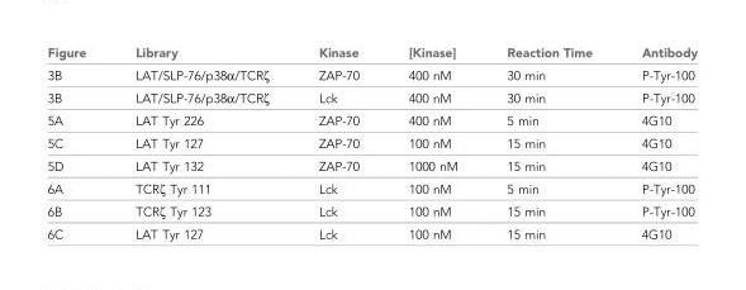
<table><thead><tr><td>Figure</td><td>Library</td><td>Kinase</td><td>[Kinase]</td><td>Reaction Time</td><td>Antibody</td></tr></thead><tbody><tr><td>3B</td><td>LAT/SLP-76/p38α/TCRζ</td><td>ZAP-70</td><td>400 nM</td><td>30 min</td><td>P-Tyr-100</td></tr><tr><td>3B</td><td>LAT/SLP-76/p38α/TCRζ</td><td>Lck</td><td>400 nM</td><td>30 min</td><td>P-Tyr-100</td></tr><tr><td>5A</td><td>LAT Tyr 226</td><td>ZAP-70</td><td>400 nM</td><td>5 min</td><td>4G10</td></tr><tr><td>5C</td><td>LAT Tyr 127</td><td>ZAP-70</td><td>100 nM</td><td>15 min</td><td>4G10</td></tr><tr><td>5D</td><td>LAT Tyr 132</td><td>ZAP-70</td><td>1000 nM</td><td>15 min</td><td>4G10</td></tr><tr><td>6A</td><td>TCRζ Tyr 111</td><td>Lck</td><td>100 nM</td><td>5 min</td><td>P-Tyr-100</td></tr><tr><td>6B</td><td>TCRζ Tyr 123</td><td>Lck</td><td>100 nM</td><td>15 min</td><td>P-Tyr-100</td></tr><tr><td>6C</td><td>LAT Tyr 127</td><td>Lck</td><td>100 nM</td><td>15 min</td><td>4G10</td></tr></tbody></table>